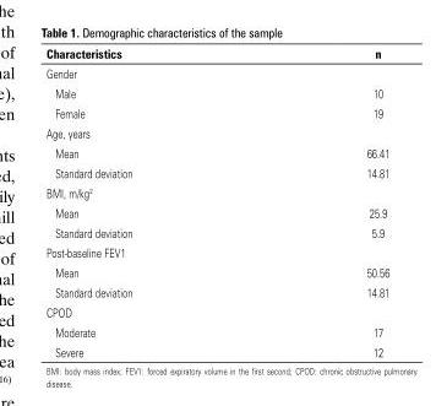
<table><thead><tr><td>Characteristics</td><td>n</td></tr></thead><tbody><tr><td colspan="2">Gender</td></tr><tr><td>Male</td><td>10</td></tr><tr><td>Female</td><td>19</td></tr><tr><td colspan="2">Age, years</td></tr><tr><td>Mean</td><td>66.41</td></tr><tr><td>Standard deviation</td><td>14.81</td></tr><tr><td colspan="2">BMI, m/kg<sup>2</sup></td></tr><tr><td>Mean</td><td>25.9</td></tr><tr><td>Standard deviation</td><td>5.9</td></tr><tr><td colspan="2">Post-baseline FEV1</td></tr><tr><td>Mean</td><td>50.56</td></tr><tr><td>Standard deviation</td><td>14.81</td></tr><tr><td colspan="2">CPOD</td></tr><tr><td>Moderate</td><td>17</td></tr><tr><td>Severe</td><td>12</td></tr></tbody></table>